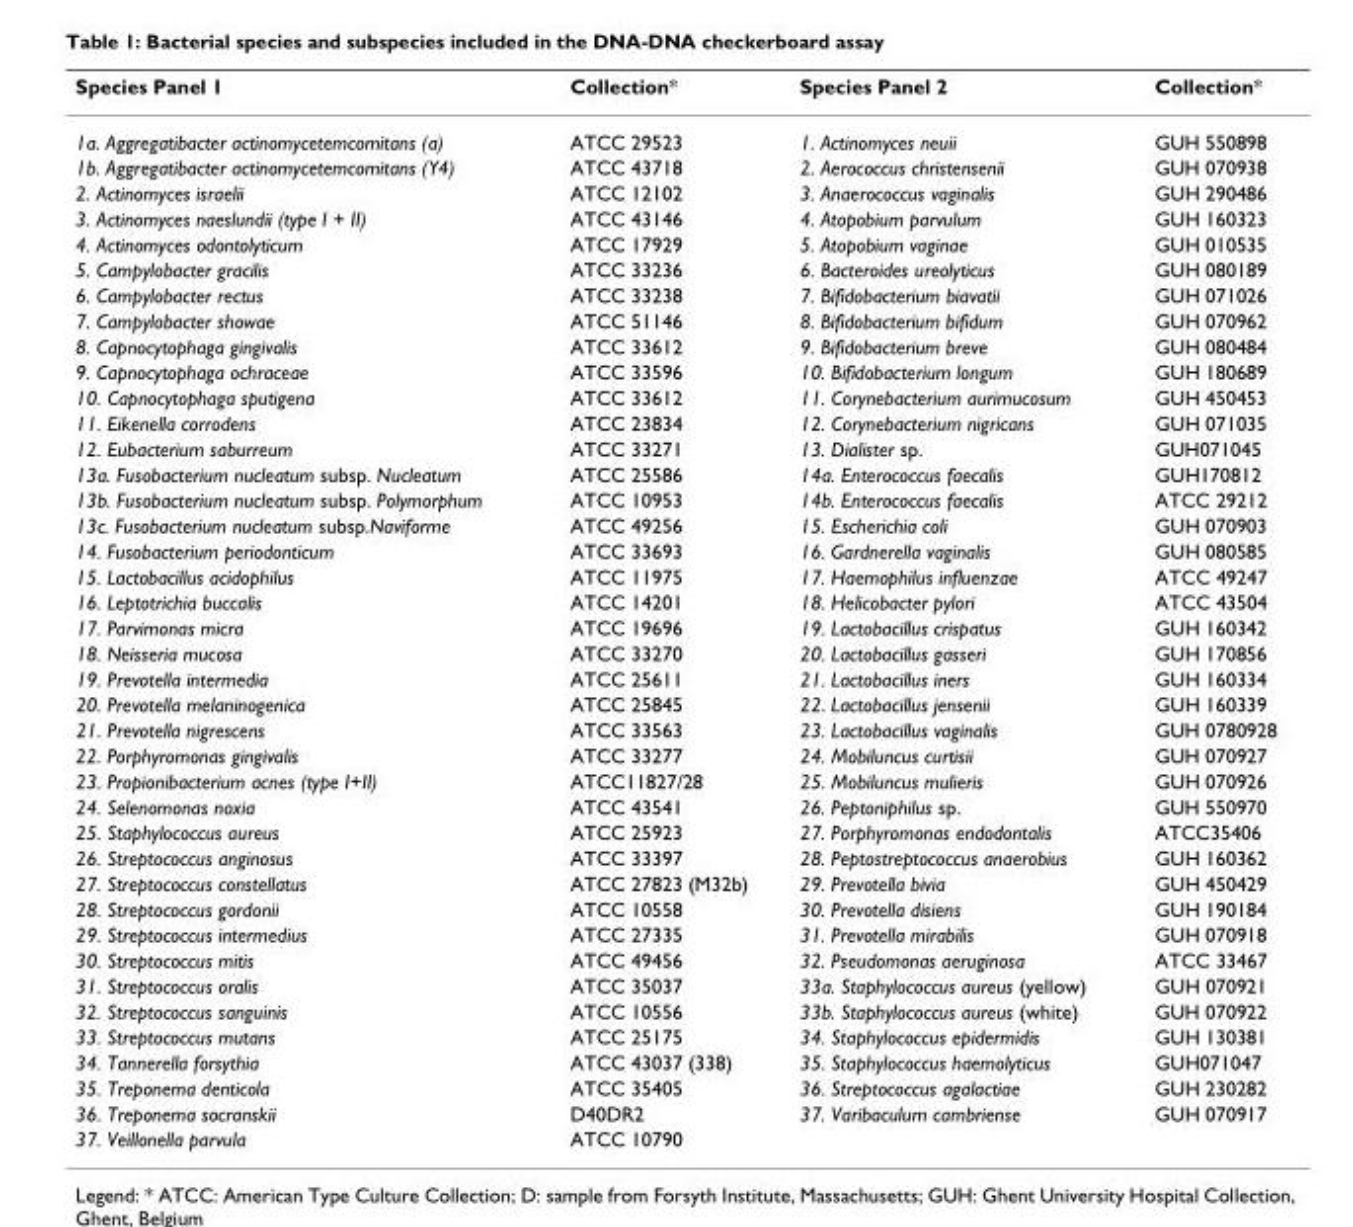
<table><thead><tr><td>Species Panel 1</td><td>Collection*</td><td>Species Panel 2</td><td>Collection*</td></tr></thead><tbody><tr><td>1a. Aggregatibacter actinomycetemcomitans (a)</td><td>ATCC 29523</td><td>1. Actinomyces neuii</td><td>GUH 550898</td></tr><tr><td>1b. Aggregatibacter actinomycetemcomitans (Y4)</td><td>ATCC 43718</td><td>2. Aerococcus christensenii</td><td>GUH 070938</td></tr><tr><td>2. Actinomyces israelii</td><td>ATCC 12102</td><td>3. Anaerococcus vaginalis</td><td>GUH 290486</td></tr><tr><td>3. Actinomyces naeslundii (type I + II)</td><td>ATCC 43146</td><td>4. Atopobium parvulum</td><td>GUH 160323</td></tr><tr><td>4. Actinomyces odontolyticum</td><td>ATCC 17929</td><td>5. Atopobium vaginae</td><td>GUH 010535</td></tr><tr><td>5. Campylobacter gracilis</td><td>ATCC 33236</td><td>6. Bacteroides ureolyticus</td><td>GUH 080189</td></tr><tr><td>6. Campylobacter rectus</td><td>ATCC 33238</td><td>7. Bifidobacterium biavatii</td><td>GUH 071026</td></tr><tr><td>7. Campylobacter showae</td><td>ATCC 51146</td><td>8. Bifidobacterium bifidum</td><td>GUH 070962</td></tr><tr><td>8. Capnocytophaga gingivalis</td><td>ATCC 33612</td><td>9. Bifidobacterium breve</td><td>GUH 080484</td></tr><tr><td>9. Capnocytophaga ochraceae</td><td>ATCC 33596</td><td>10. Bifidobacterium longum</td><td>GUH 180689</td></tr><tr><td>10. Capnocytophaga sputigena</td><td>ATCC 33612</td><td>11. Corynebacterium aurimucosum</td><td>GUH 450453</td></tr><tr><td>11. Eikenella corrodens</td><td>ATCC 23834</td><td>12. Corynebacterium nigricans</td><td>GUH 071035</td></tr><tr><td>12. Eubacterium saburreum</td><td>ATCC 33271</td><td>13. Dialister sp.</td><td>GUH071045</td></tr><tr><td>13a. Fusobacterium nucleatum subsp. Nucleatum</td><td>ATCC 25586</td><td>14a. Enterococcus faecalis</td><td>GUH170812</td></tr><tr><td>13b. Fusobacterium nucleatum subsp. Polymorphum</td><td>ATCC 10953</td><td>14b. Enterococcus faecalis</td><td>ATCC 29212</td></tr><tr><td>13c. Fusobacterium nucleatum subsp.Naviforme</td><td>ATCC 49256</td><td>15. Escherichia coli</td><td>GUH 070903</td></tr><tr><td>14. Fusobacterium periodonticum</td><td>ATCC 33693</td><td>16. Gardnerella vaginalis</td><td>GUH 080585</td></tr><tr><td>15. Lactobacillus acidophilus</td><td>ATCC 11975</td><td>17. Haemophilus influenzae</td><td>ATCC 49247</td></tr><tr><td>16. Leptotrichia buccalis</td><td>ATCC 14201</td><td>18. Helicobacter pylori</td><td>ATCC 43504</td></tr><tr><td>17. Parvimonas micra</td><td>ATCC 19696</td><td>19. Lactobacillus crispatus</td><td>GUH 160342</td></tr><tr><td>18. Neisseria mucosa</td><td>ATCC 33270</td><td>20. Lactobacillus gasseri</td><td>GUH 170856</td></tr><tr><td>19. Prevotella intermedia</td><td>ATCC 25611</td><td>21. Lactobacillus iners</td><td>GUH 160334</td></tr><tr><td>20. Prevotella melaninogenica</td><td>ATCC 25845</td><td>22. Lactobacillus jensenii</td><td>GUH 160339</td></tr><tr><td>21. Prevotella nigrescens</td><td>ATCC 33563</td><td>23. Lactobacillus vaginalis</td><td>GUH 0780928</td></tr><tr><td>22. Porphyromonas gingivalis</td><td>ATCC 33277</td><td>24. Mobiluncus curtisii</td><td>GUH 070927</td></tr><tr><td>23. Propionibacterium acnes (type I+II)</td><td>ATCC11827/28</td><td>25. Mobiluncus mulieris</td><td>GUH 070926</td></tr><tr><td>24. Selenomonas noxia</td><td>ATCC 43541</td><td>26. Peptoniphilus sp.</td><td>GUH 550970</td></tr><tr><td>25. Staphylococcus aureus</td><td>ATCC 25923</td><td>27. Porphyromonas endodontalis</td><td>ATCC35406</td></tr><tr><td>26. Streptococcus anginosus</td><td>ATCC 33397</td><td>28. Peptostreptococcus anaerobius</td><td>GUH 160362</td></tr><tr><td>27. Streptococcus constellatus</td><td>ATCC 27823 (M32b)</td><td>29. Prevotella bivia</td><td>GUH 450429</td></tr><tr><td>28. Streptococcus gordonii</td><td>ATCC 10558</td><td>30. Prevotella disiens</td><td>GUH 190184</td></tr><tr><td>29. Streptococcus intermedius</td><td>ATCC 27335</td><td>31. Prevotella mirabilis</td><td>GUH 070918</td></tr><tr><td>30. Streptococcus mitis</td><td>ATCC 49456</td><td>32. Pseudomonas aeruginosa</td><td>ATCC 33467</td></tr><tr><td>31. Streptococcus oralis</td><td>ATCC 35037</td><td>33a. Staphylococcus aureus (yellow)</td><td>GUH 070921</td></tr><tr><td>32. Streptococcus sanguinis</td><td>ATCC 10556</td><td>33b. Staphylococcus aureus (white)</td><td>GUH 070922</td></tr><tr><td>33. Streptococcus mutans</td><td>ATCC 25175</td><td>34. Staphylococcus epidermidis</td><td>GUH 130381</td></tr><tr><td>34. Tannerella forsythia</td><td>ATCC 43037 (338)</td><td>35. Staphylococcus haemolyticus</td><td>GUH071047</td></tr><tr><td>35. Treponema denticola</td><td>ATCC 35405</td><td>36. Streptococcus agalactiae</td><td>GUH 230282</td></tr><tr><td>36. Treponema socranskii</td><td>D40DR2</td><td>37. Varibaculum cambriense</td><td>GUH 070917</td></tr><tr><td>37. Veillonella parvula</td><td>ATCC 10790</td><td></td><td></td></tr></tbody></table>